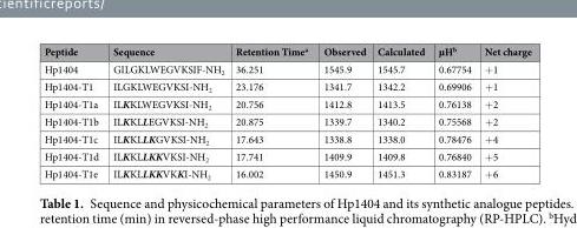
<table><thead><tr><td>Peptide</td><td>Sequence</td><td>Retention Time<sup>a</sup></td><td>Observed</td><td>Calculated</td><td>µH<sup>b</sup></td><td>Net charge</td></tr></thead><tbody><tr><td>Hp1404</td><td>GILGKLWEGVKSIF-NH<sub>2</sub></td><td>36.251</td><td>1545.9</td><td>1545.7</td><td>0.67754</td><td>+1</td></tr><tr><td>Hp1404-T1</td><td>ILGKLWEGVKSI-NH<sub>2</sub></td><td>23.176</td><td>1341.7</td><td>1342.2</td><td>0.69906</td><td>+1</td></tr><tr><td>Hp1404-T1a</td><td>ILKKLWEGVKSI-NH<sub>2</sub></td><td>20.756</td><td>1412.8</td><td>1413.5</td><td>0.76138</td><td>+2</td></tr><tr><td>Hp1404-T1b</td><td>ILKKLLEGVKSI-NH<sub>2</sub></td><td>20.875</td><td>1339.7</td><td>1340.2</td><td>0.75568</td><td>+2</td></tr><tr><td>Hp1404-T1c</td><td>ILKKLLKGVKSI-NH<sub>2</sub></td><td>17.643</td><td>1338.8</td><td>1338.0</td><td>0.78476</td><td>+4</td></tr><tr><td>Hp1404-T1d</td><td>ILKKLLKKVKSI-NH<sub>2</sub></td><td>17.741</td><td>1409.9</td><td>1409.8</td><td>0.76840</td><td>+5</td></tr><tr><td>Hp1404-T1e</td><td>ILKKLLKKVKKI-NH<sub>2</sub></td><td>16.002</td><td>1450.9</td><td>1451.3</td><td>0.83187</td><td>+6</td></tr></tbody></table>